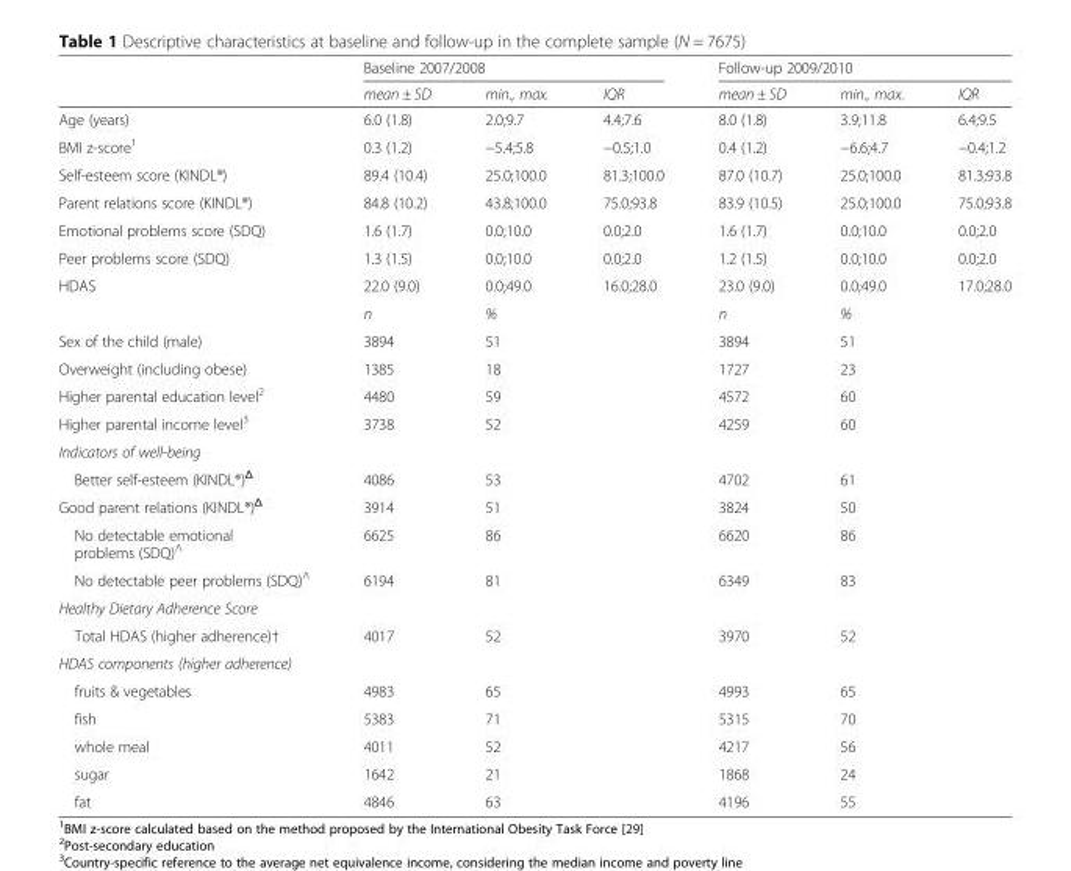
<table><thead><tr><td rowspan="2"></td><td colspan="3">Baseline 2007/2008</td><td colspan="3">Follow-up 2009/2010</td></tr><tr><td>mean ± SD</td><td>min., max.</td><td>IQR</td><td>mean ± SD</td><td>min., max.</td><td>IQR</td></tr></thead><tbody><tr><td>Age (years)</td><td>6.0 (1.8)</td><td>2.0;9.7</td><td>4.4;7.6</td><td>8.0 (1.8)</td><td>3.9;11.8</td><td>6.4;9.5</td></tr><tr><td>BMI z-score<sup>1</sup></td><td>0.3 (1.2)</td><td>−5.4;5.8</td><td>−0.5;1.0</td><td>0.4 (1.2)</td><td>−6.6;4.7</td><td>−0.4;1.2</td></tr><tr><td>Self-esteem score (KINDL®)</td><td>89.4 (10.4)</td><td>25.0;100.0</td><td>81.3;100.0</td><td>87.0 (10.7)</td><td>25.0;100.0</td><td>81.3;93.8</td></tr><tr><td>Parent relations score (KINDL®)</td><td>84.8 (10.2)</td><td>43.8;100.0</td><td>75.0;93.8</td><td>83.9 (10.5)</td><td>25.0;100.0</td><td>75.0;93.8</td></tr><tr><td>Emotional problems score (SDQ)</td><td>1.6 (1.7)</td><td>0.0;10.0</td><td>0.0;2.0</td><td>1.6 (1.7)</td><td>0.0;10.0</td><td>0.0;2.0</td></tr><tr><td>Peer problems score (SDQ)</td><td>1.3 (1.5)</td><td>0.0;10.0</td><td>0.0;2.0</td><td>1.2 (1.5)</td><td>0.0;10.0</td><td>0.0;2.0</td></tr><tr><td rowspan="2">HDAS</td><td>22.0 (9.0)</td><td>0.0;49.0</td><td>16.0;28.0</td><td>23.0 (9.0)</td><td>0.0;49.0</td><td>17.0;28.0</td></tr><tr><td>n</td><td>%</td><td></td><td>n</td><td>%</td><td></td></tr><tr><td>Sex of the child (male)</td><td>3894</td><td>51</td><td></td><td>3894</td><td>51</td><td></td></tr><tr><td>Overweight (including obese)</td><td>1385</td><td>18</td><td></td><td>1727</td><td>23</td><td></td></tr><tr><td>Higher parental education level<sup>2</sup></td><td>4480</td><td>59</td><td></td><td>4572</td><td>60</td><td></td></tr><tr><td>Higher parental income level<sup>3</sup></td><td>3738</td><td>52</td><td></td><td>4259</td><td>60</td><td></td></tr><tr><td colspan="7">Indicators of well-being</td></tr><tr><td>Better self-esteem (KINDL®)<sup>Δ</sup></td><td>4086</td><td>53</td><td></td><td>4702</td><td>61</td><td></td></tr><tr><td>Good parent relations (KINDL®)<sup>Δ</sup></td><td>3914</td><td>51</td><td></td><td>3824</td><td>50</td><td></td></tr><tr><td>No detectable emotional problems (SDQ)<sup>Λ</sup></td><td>6625</td><td>86</td><td></td><td>6620</td><td>86</td><td></td></tr><tr><td>No detectable peer problems (SDQ)<sup>Λ</sup></td><td>6194</td><td>81</td><td></td><td>6349</td><td>83</td><td></td></tr><tr><td colspan="7">Healthy Dietary Adherence Score</td></tr><tr><td>Total HDAS (higher adherence)†</td><td>4017</td><td>52</td><td></td><td>3970</td><td>52</td><td></td></tr><tr><td colspan="7">HDAS components (higher adherence)</td></tr><tr><td>fruits &amp; vegetables</td><td>4983</td><td>65</td><td></td><td>4993</td><td>65</td><td></td></tr><tr><td>fish</td><td>5383</td><td>71</td><td></td><td>5315</td><td>70</td><td></td></tr><tr><td>whole meal</td><td>4011</td><td>52</td><td></td><td>4217</td><td>56</td><td></td></tr><tr><td>sugar</td><td>1642</td><td>21</td><td></td><td>1868</td><td>24</td><td></td></tr><tr><td>fat</td><td>4846</td><td>63</td><td></td><td>4196</td><td>55</td><td></td></tr></tbody></table>